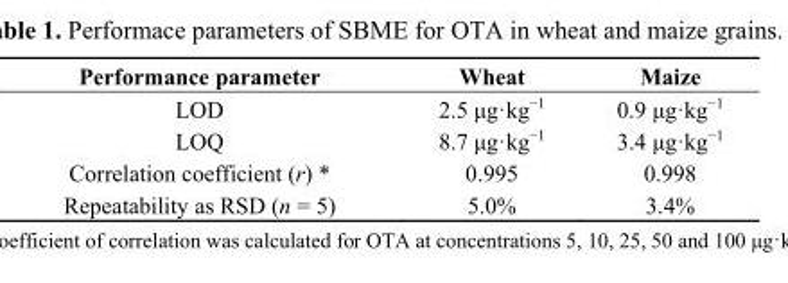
<table><thead><tr><td>Performance parameter</td><td>Wheat</td><td>Maize</td></tr></thead><tbody><tr><td>LOD</td><td>2.5 μg·kg<sup>−1</sup></td><td>0.9 μg·kg<sup>−1</sup></td></tr><tr><td>LOQ</td><td>8.7 μg·kg<sup>−1</sup></td><td>3.4 μg·kg<sup>−1</sup></td></tr><tr><td>Correlation coefficient (r) *</td><td>0.995</td><td>0.998</td></tr><tr><td>Repeatability as RSD (n = 5)</td><td>5.0%</td><td>3.4%</td></tr></tbody></table>